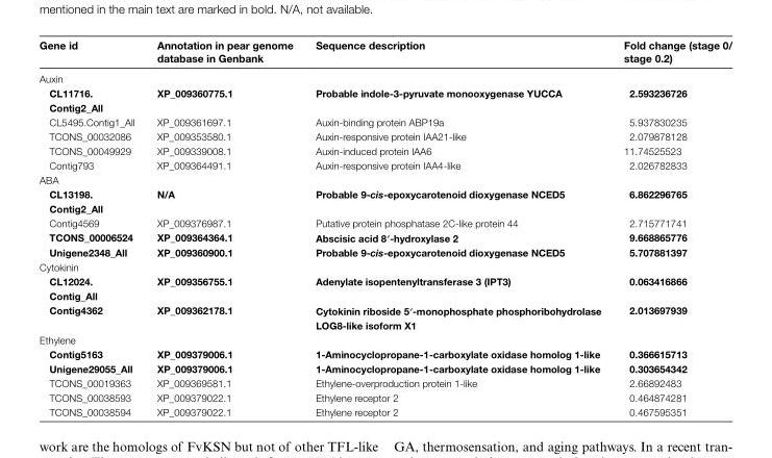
<table><thead><tr><td>Gene id</td><td>Annotation in pear genome database in Genbank</td><td>Sequence description</td><td>Fold change (stage 0/ stage 0.2)</td></tr></thead><tbody><tr><td colspan="4">Auxin</td></tr><tr><td>CL11716. Contig2_All</td><td>XP_009360775.1</td><td>Probable indole-3-pyruvate monooxygenase YUCCA</td><td>2.593236726</td></tr><tr><td>CL5495.Contig1_All</td><td>XP_009361697.1</td><td>Auxin-binding protein ABP19a</td><td>5.937830235</td></tr><tr><td>TCONS_00032086</td><td>XP_009353580.1</td><td>Auxin-responsive protein IAA21-like</td><td>2.079878128</td></tr><tr><td>TCONS_00049929</td><td>XP_009339008.1</td><td>Auxin-induced protein IAA6</td><td>11.74525523</td></tr><tr><td>Contig793</td><td>XP_009364491.1</td><td>Auxin-responsive protein IAA4-like</td><td>2.026782833</td></tr><tr><td colspan="4">ABA</td></tr><tr><td>CL13198. Contig2_All</td><td>N/A</td><td>Probable 9-cis-epoxycarotenoid dioxygenase NCED5</td><td>6.862296765</td></tr><tr><td>Contig4569</td><td>XP_009376987.1</td><td>Putative protein phosphatase 2C-like protein 44</td><td>2.715771741</td></tr><tr><td>TCONS_00006524</td><td>XP_009364364.1</td><td>Abscisic acid 8′-hydroxylase 2</td><td>9.668865776</td></tr><tr><td>Unigene2348_All</td><td>XP_009360900.1</td><td>Probable 9-cis-epoxycarotenoid dioxygenase NCED5</td><td>5.707881397</td></tr><tr><td colspan="4">Cytokinin</td></tr><tr><td>CL12024. Contig_All</td><td>XP_009356755.1</td><td>Adenylate isopentenyltransferase 3 (IPT3)</td><td>0.063416866</td></tr><tr><td>Contig4362</td><td>XP_009362178.1</td><td>Cytokinin riboside 5′-monophosphate phosphoribohydrolase LOG8-like isoform X1</td><td>2.013697939</td></tr><tr><td colspan="4">Ethylene</td></tr><tr><td>Contig5163</td><td>XP_009379006.1</td><td>1-Aminocyclopropane-1-carboxylate oxidase homolog 1-like</td><td>0.366615713</td></tr><tr><td>Unigene29055_All</td><td>XP_009379006.1</td><td>1-Aminocyclopropane-1-carboxylate oxidase homolog 1-like</td><td>0.303654342</td></tr><tr><td>TCONS_00019363</td><td>XP_009369581.1</td><td>Ethylene-overproduction protein 1-like</td><td>2.66892483</td></tr><tr><td>TCONS_00038593</td><td>XP_009379022.1</td><td>Ethylene receptor 2</td><td>0.464874281</td></tr><tr><td>TCONS_00038594</td><td>XP_009379022.1</td><td>Ethylene receptor 2</td><td>0.467595351</td></tr></tbody></table>